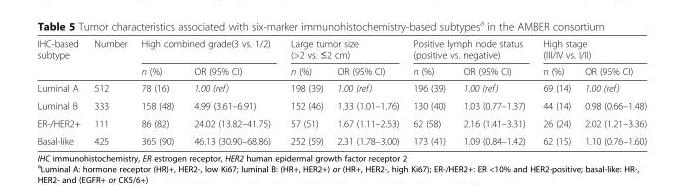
<table><thead><tr><td rowspan="2">IHC-based subtype</td><td rowspan="2">Number</td><td colspan="2">High combined grade(3 vs. 1/2)</td><td colspan="2">Large tumor size (&gt;2 vs. ≤2 cm)</td><td colspan="2">Positive lymph node status (positive vs. negative)</td><td colspan="2">High stage (III/IV vs. I/II)</td></tr><tr><td>n (%)</td><td>OR (95% CI)</td><td>n (%)</td><td>OR (95% CI)</td><td>n (%)</td><td>OR (95% CI)</td><td>n (%)</td><td>OR (95% CI)</td></tr></thead><tbody><tr><td>Luminal A</td><td>512</td><td>78 (16)</td><td>1.00 (ref)</td><td>198 (39)</td><td>1.00 (ref)</td><td>196 (39)</td><td>1.00 (ref)</td><td>69 (14)</td><td>1.00 (ref)</td></tr><tr><td>Luminal B</td><td>333</td><td>158 (48)</td><td>4.99 (3.61–6.91)</td><td>152 (46)</td><td>1.33 (1.01–1.76)</td><td>130 (40)</td><td>1.03 (0.77–1.37)</td><td>44 (14)</td><td>0.98 (0.66–1.48)</td></tr><tr><td>ER-/HER2+</td><td>111</td><td>86 (82)</td><td>24.02 (13.82–41.75)</td><td>57 (51)</td><td>1.67 (1.11–2.53)</td><td>62 (58)</td><td>2.16 (1.41–3.31)</td><td>26 (24)</td><td>2.02 (1.21–3.36)</td></tr><tr><td>Basal-like</td><td>425</td><td>365 (90)</td><td>46.13 (30.90–68.86)</td><td>252 (59)</td><td>2.31 (1.78–3.00)</td><td>173 (41)</td><td>1.09 (0.84–1.42)</td><td>62 (15)</td><td>1.10 (0.76–1.60)</td></tr></tbody></table>